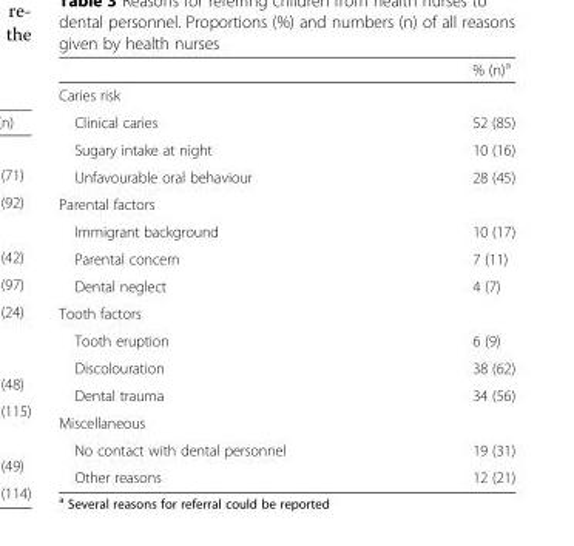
<table><thead><tr><td></td><td>% (n)<sup>a</sup></td></tr></thead><tbody><tr><td colspan="2">Caries risk</td></tr><tr><td>Clinical caries</td><td>52 (85)</td></tr><tr><td>Sugary intake at night</td><td>10 (16)</td></tr><tr><td>Unfavourable oral behaviour</td><td>28 (45)</td></tr><tr><td colspan="2">Parental factors</td></tr><tr><td>Immigrant background</td><td>10 (17)</td></tr><tr><td>Parental concern</td><td>7 (11)</td></tr><tr><td>Dental neglect</td><td>4 (7)</td></tr><tr><td colspan="2">Tooth factors</td></tr><tr><td>Tooth eruption</td><td>6 (9)</td></tr><tr><td>Discolouration</td><td>38 (62)</td></tr><tr><td>Dental trauma</td><td>34 (56)</td></tr><tr><td colspan="2">Miscellaneous</td></tr><tr><td>No contact with dental personnel</td><td>19 (31)</td></tr><tr><td>Other reasons</td><td>12 (21)</td></tr></tbody></table>